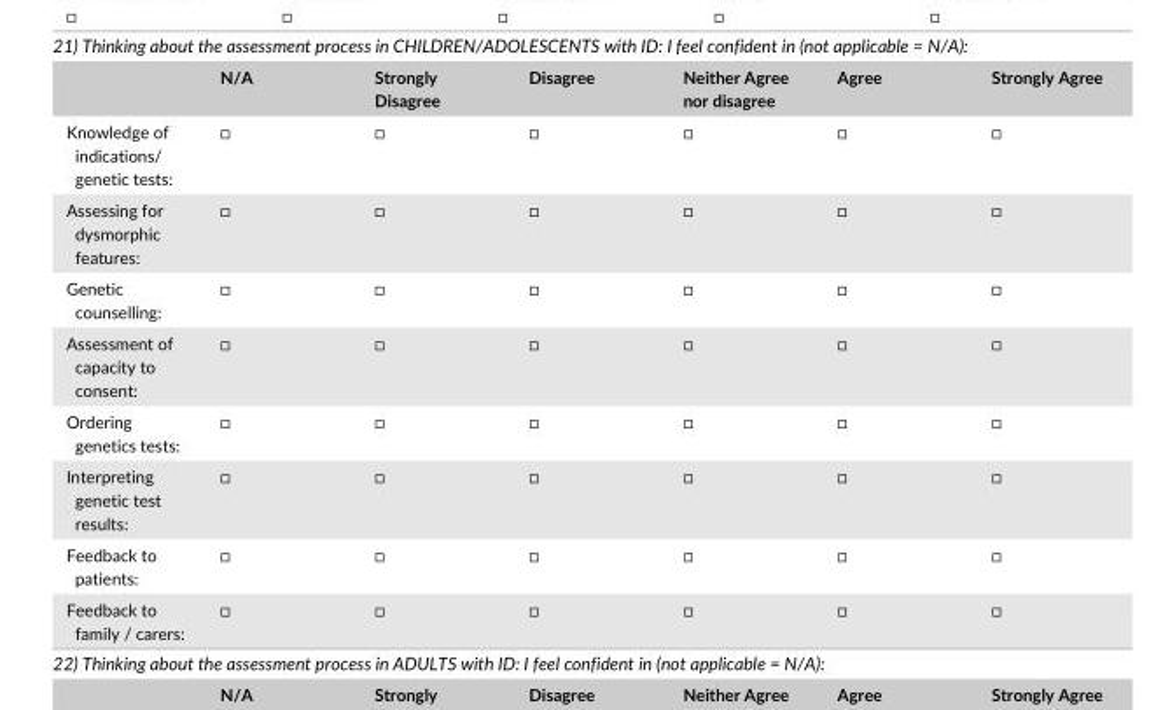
<table><thead><tr><td></td><td>N/A</td><td>Strongly Disagree</td><td>Disagree</td><td>Neither Agree nor disagree</td><td>Agree</td><td>Strongly Agree</td></tr></thead><tbody><tr><td>Knowledge of indications/ genetic tests:</td><td>□</td><td>□</td><td>□</td><td>□</td><td>□</td><td>□</td></tr><tr><td>Assessing for dysmorphic features:</td><td>□</td><td>□</td><td>□</td><td>□</td><td>□</td><td>□</td></tr><tr><td>Genetic counselling:</td><td>□</td><td>□</td><td>□</td><td>□</td><td>□</td><td>□</td></tr><tr><td>Assessment of capacity to consent:</td><td>□</td><td>□</td><td>□</td><td>□</td><td>□</td><td>□</td></tr><tr><td>Ordering genetics tests:</td><td>□</td><td>□</td><td>□</td><td>□</td><td>□</td><td>□</td></tr><tr><td>Interpreting genetic test results:</td><td>□</td><td>□</td><td>□</td><td>□</td><td>□</td><td>□</td></tr><tr><td>Feedback to patients:</td><td>□</td><td>□</td><td>□</td><td>□</td><td>□</td><td>□</td></tr><tr><td>Feedback to family / carers:</td><td>□</td><td>□</td><td>□</td><td>□</td><td>□</td><td>□</td></tr></tbody></table>